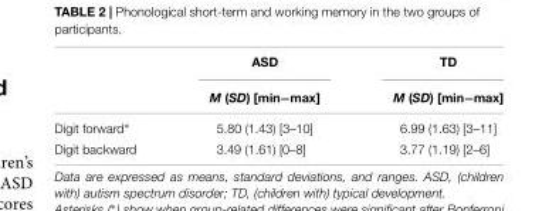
<table><thead><tr><td rowspan="2"></td><td rowspan="2">ASD M (SD) [min−max]</td><td rowspan="2">TD M (SD) [min−max]</td></tr><tr></tr></thead><tbody><tr><td>Digit forward∗</td><td>5.80 (1.43) [3–10]</td><td>6.99 (1.63) [3–11]</td></tr><tr><td>Digit backward</td><td>3.49 (1.61) [0–8]</td><td>3.77 (1.19) [2–6]</td></tr></tbody></table>